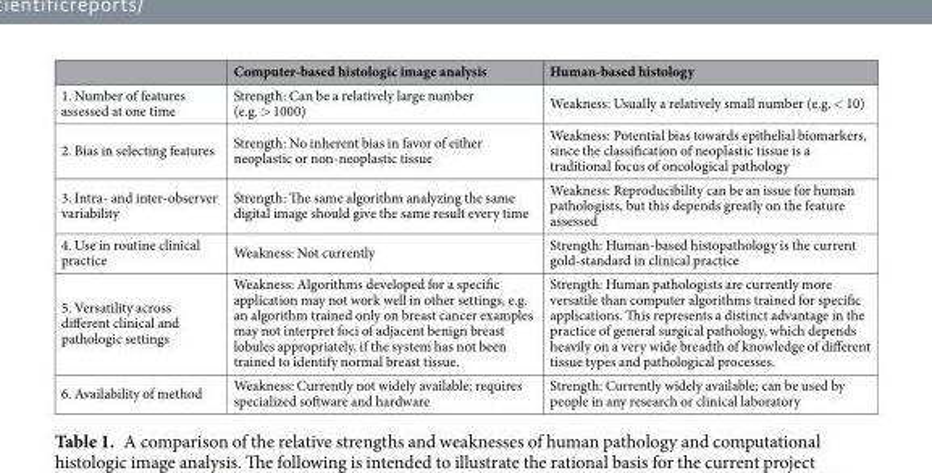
<table><thead><tr><td></td><td>Computer-based histologic image analysis</td><td>Human-based histology</td></tr></thead><tbody><tr><td>1. Number of features assessed at one time</td><td>Strength: Can be a relatively large number (e.g. &gt; 1000)</td><td>Weakness: Usually a relatively small number (e.g. &lt; 10)</td></tr><tr><td>2. Bias in selecting features</td><td>Strength: No inherent bias in favor of either neoplastic or non-neoplastic tissue</td><td>Weakness: Potential bias towards epithelial biomarkers, since the classification of neoplastic tissue is a traditional focus of oncological pathology</td></tr><tr><td>3. Intra- and inter-observer variability</td><td>Strength: The same algorithm analyzing the same digital image should give the same result every time</td><td>Weakness: Reproducibility can be an issue for human pathologists, but this depends greatly on the feature assessed</td></tr><tr><td>4. Use in routine clinical practice</td><td>Weakness: Not currently</td><td>Strength: Human-based histopathology is the current gold-standard in clinical practice</td></tr><tr><td>5. Versatility across different clinical and pathologic settings</td><td>Weakness: Algorithms developed for a specific application may not work well in other settings, e.g. an algorithm trained only on breast cancer examples may not interpret foci of adjacent benign breast lobules appropriately, if the system has not been trained to identify normal breast tissue.</td><td>Strength: Human pathologists are currently more versatile than computer algorithms trained for specific applications. This represents a distinct advantage in the practice of general surgical pathology, which depends heavily on a very wide breadth of knowledge of different tissue types and pathological processes.</td></tr><tr><td>6. Availability of method</td><td>Weakness: Currently not widely available; requires specialized software and hardware</td><td>Strength: Currently widely available; can be used by people in any research or clinical laboratory</td></tr></tbody></table>